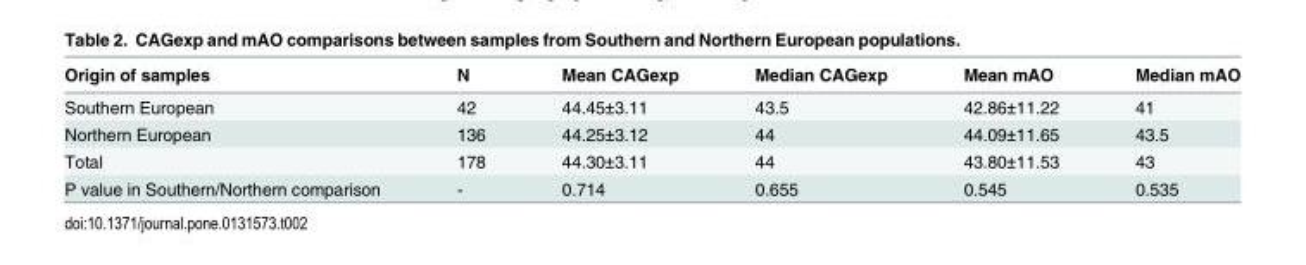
<table><thead><tr><td>Origin of samples</td><td>N</td><td>Mean CAGexp</td><td>Median CAGexp</td><td>Mean mAO</td><td>Median mAO</td></tr></thead><tbody><tr><td>Southern European</td><td>42</td><td>44.45±3.11</td><td>43.5</td><td>42.86±11.22</td><td>41</td></tr><tr><td>Northern European</td><td>136</td><td>44.25±3.12</td><td>44</td><td>44.09±11.65</td><td>43.5</td></tr><tr><td>Total</td><td>178</td><td>44.30±3.11</td><td>44</td><td>43.80±11.53</td><td>43</td></tr><tr><td>P value in Southern/Northern comparison</td><td>-</td><td>0.714</td><td>0.655</td><td>0.545</td><td>0.535</td></tr></tbody></table>